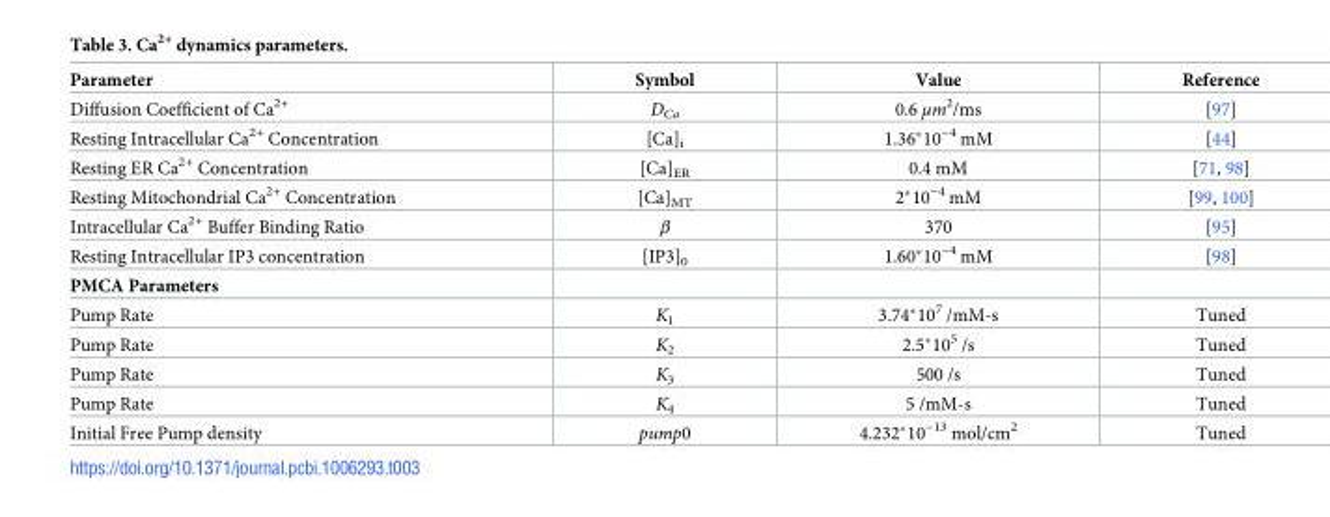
<table><thead><tr><td>Parameter</td><td>Symbol</td><td>Value</td><td>Reference</td></tr></thead><tbody><tr><td>Diffusion Coefficient of Ca<sup>2+</sup></td><td>D<sub>Ca</sub></td><td>0.6 μm<sup>2</sup>/ms</td><td>[97]</td></tr><tr><td>Resting Intracellular Ca<sup>2+</sup> Concentration</td><td>[Ca]<sub>i</sub></td><td>1.36*10<sup>−4</sup> mM</td><td>[44]</td></tr><tr><td>Resting ER Ca<sup>2+</sup> Concentration</td><td>[Ca]<sub>ER</sub></td><td>0.4 mM</td><td>[71, 98]</td></tr><tr><td>Resting Mitochondrial Ca<sup>2+</sup> Concentration</td><td>[Ca]<sub>MT</sub></td><td>2*10<sup>−4</sup> mM</td><td>[99, 100]</td></tr><tr><td>Intracellular Ca<sup>2+</sup> Buffer Binding Ratio</td><td>β</td><td>370</td><td>[95]</td></tr><tr><td>Resting Intracellular IP3 concentration</td><td>[IP3]<sub>0</sub></td><td>1.60*10<sup>−4</sup> mM</td><td>[98]</td></tr><tr><td colspan="4">PMCA Parameters</td></tr><tr><td>Pump Rate</td><td>K<sub>1</sub></td><td>3.74*10<sup>7</sup> /mM-s</td><td>Tuned</td></tr><tr><td>Pump Rate</td><td>K<sub>2</sub></td><td>2.5*10<sup>5</sup> /s</td><td>Tuned</td></tr><tr><td>Pump Rate</td><td>K<sub>3</sub></td><td>500 /s</td><td>Tuned</td></tr><tr><td>Pump Rate</td><td>K<sub>4</sub></td><td>5 /mM-s</td><td>Tuned</td></tr><tr><td>Initial Free Pump density</td><td>pump0</td><td>4.232*10<sup>−13</sup> mol/cm<sup>2</sup></td><td>Tuned</td></tr></tbody></table>